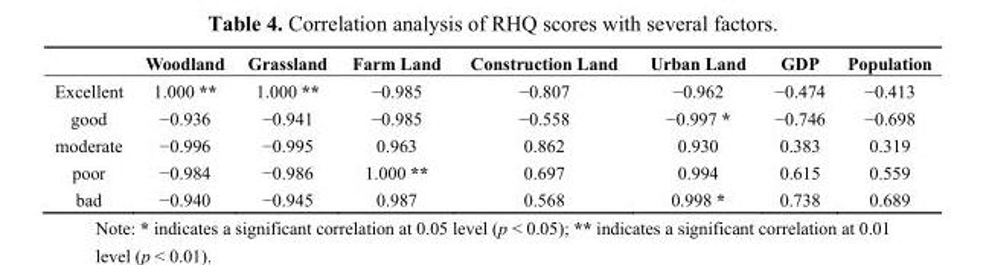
<table><thead><tr><td></td><td>Woodland</td><td>Grassland</td><td>Farm Land</td><td>Construction Land</td><td>Urban Land</td><td>GDP</td><td>Population</td></tr></thead><tbody><tr><td>Excellent</td><td>1.000 **</td><td>1.000 **</td><td>−0.985</td><td>−0.807</td><td>−0.962</td><td>−0.474</td><td>−0.413</td></tr><tr><td>good</td><td>−0.936</td><td>−0.941</td><td>−0.985</td><td>−0.558</td><td>−0.997 *</td><td>−0.746</td><td>−0.698</td></tr><tr><td>moderate</td><td>−0.996</td><td>−0.995</td><td>0.963</td><td>0.862</td><td>0.930</td><td>0.383</td><td>0.319</td></tr><tr><td>poor</td><td>−0.984</td><td>−0.986</td><td>1.000 **</td><td>0.697</td><td>0.994</td><td>0.615</td><td>0.559</td></tr><tr><td>bad</td><td>−0.940</td><td>−0.945</td><td>0.987</td><td>0.568</td><td>0.998 *</td><td>0.738</td><td>0.689</td></tr></tbody></table>